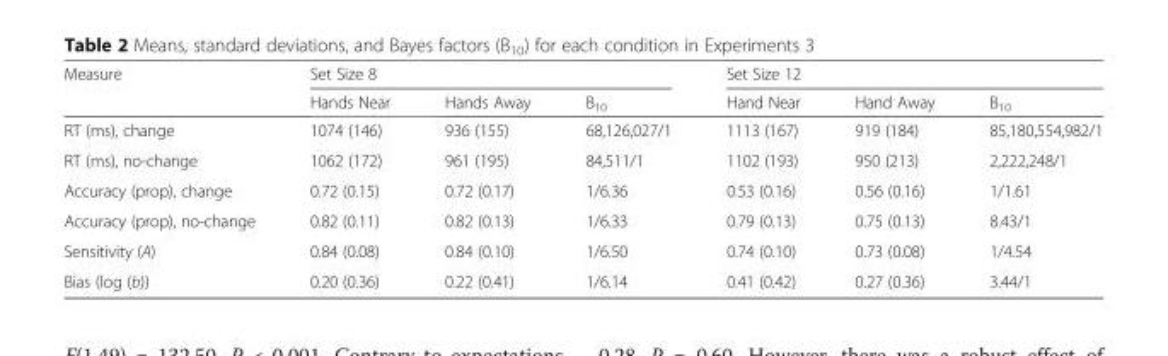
<table><thead><tr><td rowspan="2">Measure</td><td colspan="3">Set Size 8</td><td colspan="3">Set Size 12</td></tr><tr><td>Hands Near</td><td>Hands Away</td><td>B<sub>10</sub></td><td>Hand Near</td><td>Hand Away</td><td>B<sub>10</sub></td></tr></thead><tbody><tr><td>RT (ms), change</td><td>1074 (146)</td><td>936 (155)</td><td>68,126,027/1</td><td>1113 (167)</td><td>919 (184)</td><td>85,180,554,982/1</td></tr><tr><td>RT (ms), no-change</td><td>1062 (172)</td><td>961 (195)</td><td>84,511/1</td><td>1102 (193)</td><td>950 (213)</td><td>2,222,248/1</td></tr><tr><td>Accuracy (prop), change</td><td>0.72 (0.15)</td><td>0.72 (0.17)</td><td>1/6.36</td><td>0.53 (0.16)</td><td>0.56 (0.16)</td><td>1/1.61</td></tr><tr><td>Accuracy (prop), no-change</td><td>0.82 (0.11)</td><td>0.82 (0.13)</td><td>1/6.33</td><td>0.79 (0.13)</td><td>0.75 (0.13)</td><td>8.43/1</td></tr><tr><td>Sensitivity (A)</td><td>0.84 (0.08)</td><td>0.84 (0.10)</td><td>1/6.50</td><td>0.74 (0.10)</td><td>0.73 (0.08)</td><td>1/4.54</td></tr><tr><td>Bias (log (b))</td><td>0.20 (0.36)</td><td>0.22 (0.41)</td><td>1/6.14</td><td>0.41 (0.42)</td><td>0.27 (0.36)</td><td>3.44/1</td></tr></tbody></table>